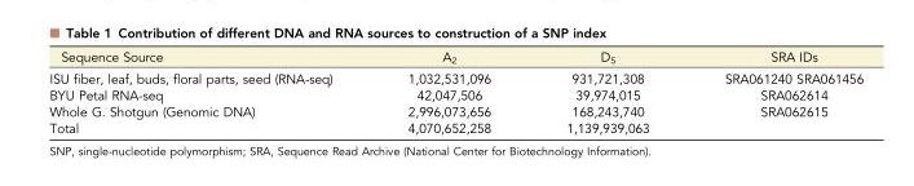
<table><thead><tr><td>Sequence Source</td><td>A<sub>2</sub></td><td>D<sub>5</sub></td><td>SRA IDs</td></tr></thead><tbody><tr><td>ISU fiber, leaf, buds, floral parts, seed (RNA-seq)</td><td>1,032,531,096</td><td>931,721,308</td><td>SRA061240 SRA061456</td></tr><tr><td>BYU Petal RNA-seq</td><td>42,047,506</td><td>39,974,015</td><td>SRA062614</td></tr><tr><td>Whole G. Shotgun (Genomic DNA)</td><td>2,996,073,656</td><td>168,243,740</td><td>SRA062615</td></tr><tr><td>Total</td><td>4,070,652,258</td><td>1,139,939,063</td><td></td></tr></tbody></table>